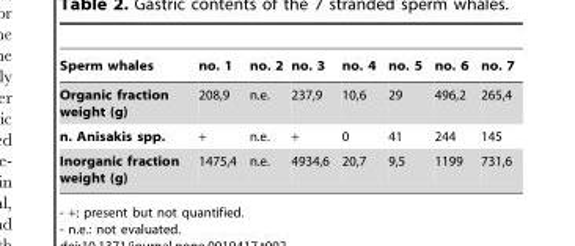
<table><thead><tr><td>Sperm whales</td><td>no. 1</td><td>no. 2</td><td>no. 3</td><td>no. 4</td><td>no. 5</td><td>no. 6</td><td>no. 7</td></tr></thead><tbody><tr><td>Organic fraction weight (g)</td><td>208,9</td><td>n.e.</td><td>237,9</td><td>10,6</td><td>29</td><td>496,2</td><td>265,4</td></tr><tr><td>n. Anisakis spp.</td><td>+</td><td>n.e.</td><td>+</td><td>0</td><td>41</td><td>244</td><td>145</td></tr><tr><td>Inorganic fraction weight (g)</td><td>1475,4</td><td>n.e.</td><td>4934,6</td><td>20,7</td><td>9,5</td><td>1199</td><td>731,6</td></tr></tbody></table>